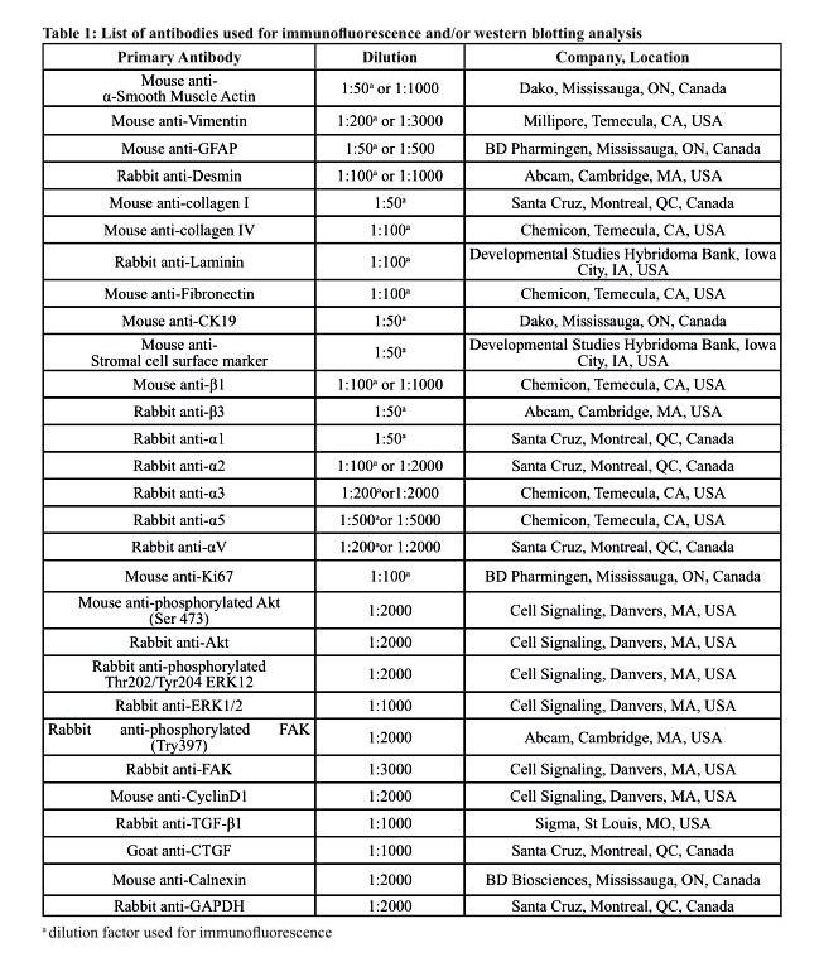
<table><thead><tr><td>Primary Antibody</td><td>Dilution</td><td>Company, Location</td></tr></thead><tbody><tr><td>Mouse anti- α-Smooth Muscle Actin</td><td>1:50<sup>a</sup> or 1:1000</td><td>Dako, Mississauga, ON, Canada</td></tr><tr><td>Mouse anti-Vimentin</td><td>1:200<sup>a</sup> or 1:3000</td><td>Millipore, Temecula, CA, USA</td></tr><tr><td>Mouse anti-GFAP</td><td>1:50<sup>a</sup> or 1:500</td><td>BD Pharmingen, Mississauga, ON, Canada</td></tr><tr><td>Rabbit anti-Desmin</td><td>1:100<sup>a</sup> or 1:1000</td><td>Abcam, Cambridge, MA, USA</td></tr><tr><td>Mouse anti-collagen I</td><td>1:50<sup>a</sup></td><td>Santa Cruz, Montreal, QC, Canada</td></tr><tr><td>Mouse anti-collagen IV</td><td>1:100<sup>a</sup></td><td>Chemicon, Temecula, CA, USA</td></tr><tr><td>Rabbit anti-Laminin</td><td>1:100<sup>a</sup></td><td>Developmental Studies Hybridoma Bank, Iowa City, IA, USA</td></tr><tr><td>Mouse anti-Fibronectin</td><td>1:100<sup>a</sup></td><td>Chemicon, Temecula, CA, USA</td></tr><tr><td>Mouse anti-CK19</td><td>1:50<sup>a</sup></td><td>Dako, Mississauga, ON, Canada</td></tr><tr><td>Mouse anti- Stromal cell surface marker</td><td>1:50<sup>a</sup></td><td>Developmental Studies Hybridoma Bank, Iowa City, IA, USA</td></tr><tr><td>Mouse anti-β1</td><td>1:100<sup>a</sup> or 1:1000</td><td>Chemicon, Temecula, CA, USA</td></tr><tr><td>Rabbit anti-β3</td><td>1:50<sup>a</sup></td><td>Abcam, Cambridge, MA, USA</td></tr><tr><td>Rabbit anti-α1</td><td>1:50<sup>a</sup></td><td>Santa Cruz, Montreal, QC, Canada</td></tr><tr><td>Rabbit anti-α2</td><td>1:100<sup>a</sup> or 1:2000</td><td>Santa Cruz, Montreal, QC, Canada</td></tr><tr><td>Rabbit anti-α3</td><td>1:200<sup>a</sup>or1:2000</td><td>Chemicon, Temecula, CA, USA</td></tr><tr><td>Rabbit anti-α5</td><td>1:500<sup>a</sup>or 1:5000</td><td>Chemicon, Temecula, CA, USA</td></tr><tr><td>Rabbit anti-αV</td><td>1:200<sup>a</sup>or 1:2000</td><td>Santa Cruz, Montreal, QC, Canada</td></tr><tr><td>Mouse anti-Ki67</td><td>1:100<sup>a</sup></td><td>BD Pharmingen, Mississauga, ON, Canada</td></tr><tr><td>Mouse anti-phosphorylated Akt (Ser 473)</td><td>1:2000</td><td>Cell Signaling, Danvers, MA, USA</td></tr><tr><td>Rabbit anti-Akt</td><td>1:2000</td><td>Cell Signaling, Danvers, MA, USA</td></tr><tr><td>Rabbit anti-phosphorylated Thr202/Tyr204 ERK12</td><td>1:2000</td><td>Cell Signaling, Danvers, MA, USA</td></tr><tr><td>Rabbit anti-ERK1/2</td><td>1:1000</td><td>Cell Signaling, Danvers, MA, USA</td></tr><tr><td>Rabbit anti-phosphorylated FAK (Try397)</td><td>1:2000</td><td>Abcam, Cambridge, MA, USA</td></tr><tr><td>Rabbit anti-FAK</td><td>1:3000</td><td>Cell Signaling, Danvers, MA, USA</td></tr><tr><td>Mouse anti-CyclinD1</td><td>1:2000</td><td>Cell Signaling, Danvers, MA, USA</td></tr><tr><td>Rabbit anti-TGF-β1</td><td>1:1000</td><td>Sigma, St Louis, MO, USA</td></tr><tr><td>Goat anti-CTGF</td><td>1:1000</td><td>Santa Cruz, Montreal, QC, Canada</td></tr><tr><td>Mouse anti-Calnexin</td><td>1:2000</td><td>BD Biosciences, Mississauga, ON, Canada</td></tr><tr><td>Rabbit anti-GAPDH</td><td>1:2000</td><td>Santa Cruz, Montreal, QC, Canada</td></tr></tbody></table>